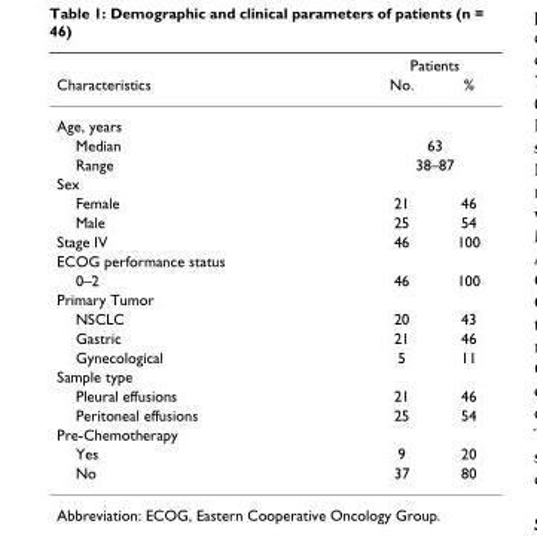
<table><thead><tr><td rowspan="2">Characteristics</td><td colspan="2">Patients</td></tr><tr><td>No.</td><td>%</td></tr></thead><tbody><tr><td colspan="3">Age, years</td></tr><tr><td>Median</td><td colspan="2">63</td></tr><tr><td>Range</td><td colspan="2">38–87</td></tr><tr><td colspan="3">Sex</td></tr><tr><td>Female</td><td>21</td><td>46</td></tr><tr><td>Male</td><td>25</td><td>54</td></tr><tr><td>Stage IV</td><td>46</td><td>100</td></tr><tr><td colspan="3">ECOG performance status</td></tr><tr><td>0–2</td><td>46</td><td>100</td></tr><tr><td colspan="3">Primary Tumor</td></tr><tr><td>NSCLC</td><td>20</td><td>43</td></tr><tr><td>Gastric</td><td>21</td><td>46</td></tr><tr><td>Gynecological</td><td>5</td><td>11</td></tr><tr><td colspan="3">Sample type</td></tr><tr><td>Pleural effusions</td><td>21</td><td>46</td></tr><tr><td>Peritoneal effusions</td><td>25</td><td>54</td></tr><tr><td colspan="3">Pre-Chemotherapy</td></tr><tr><td>Yes</td><td>9</td><td>20</td></tr><tr><td>No</td><td>37</td><td>80</td></tr></tbody></table>